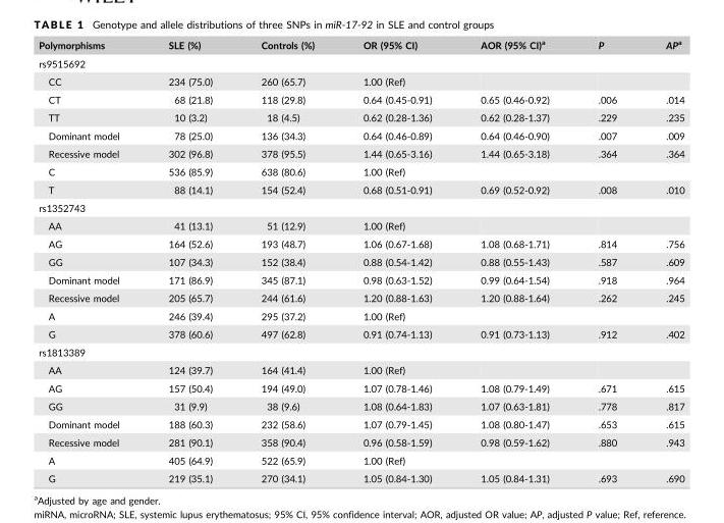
<table><thead><tr><td>Polymorphisms</td><td>SLE (%)</td><td>Controls (%)</td><td>OR (95% CI)</td><td>AOR (95% CI)<sup>a</sup></td><td>P</td><td>APa</td></tr></thead><tbody><tr><td colspan="7">rs9515692</td></tr><tr><td>CC</td><td>234 (75.0)</td><td>260 (65.7)</td><td>1.00 (Ref)</td><td></td><td></td><td></td></tr><tr><td>CT</td><td>68 (21.8)</td><td>118 (29.8)</td><td>0.64 (0.45-0.91)</td><td>0.65 (0.46-0.92)</td><td>.006</td><td>.014</td></tr><tr><td>TT</td><td>10 (3.2)</td><td>18 (4.5)</td><td>0.62 (0.28-1.36)</td><td>0.62 (0.28-1.37)</td><td>.229</td><td>.235</td></tr><tr><td>Dominant model</td><td>78 (25.0)</td><td>136 (34.3)</td><td>0.64 (0.46-0.89)</td><td>0.64 (0.46-0.90)</td><td>.007</td><td>.009</td></tr><tr><td>Recessive model</td><td>302 (96.8)</td><td>378 (95.5)</td><td>1.44 (0.65-3.16)</td><td>1.44 (0.65-3.18)</td><td>.364</td><td>.364</td></tr><tr><td>C</td><td>536 (85.9)</td><td>638 (80.6)</td><td>1.00 (Ref)</td><td></td><td></td><td></td></tr><tr><td>T</td><td>88 (14.1)</td><td>154 (52.4)</td><td>0.68 (0.51-0.91)</td><td>0.69 (0.52-0.92)</td><td>.008</td><td>.010</td></tr><tr><td colspan="7">rs1352743</td></tr><tr><td>AA</td><td>41 (13.1)</td><td>51 (12.9)</td><td>1.00 (Ref)</td><td></td><td></td><td></td></tr><tr><td>AG</td><td>164 (52.6)</td><td>193 (48.7)</td><td>1.06 (0.67-1.68)</td><td>1.08 (0.68-1.71)</td><td>.814</td><td>.756</td></tr><tr><td>GG</td><td>107 (34.3)</td><td>152 (38.4)</td><td>0.88 (0.54-1.42)</td><td>0.88 (0.55-1.43)</td><td>.587</td><td>.609</td></tr><tr><td>Dominant model</td><td>171 (86.9)</td><td>345 (87.1)</td><td>0.98 (0.63-1.52)</td><td>0.99 (0.64-1.54)</td><td>.918</td><td>.964</td></tr><tr><td>Recessive model</td><td>205 (65.7)</td><td>244 (61.6)</td><td>1.20 (0.88-1.63)</td><td>1.20 (0.88-1.64)</td><td>.262</td><td>.245</td></tr><tr><td>A</td><td>246 (39.4)</td><td>295 (37.2)</td><td>1.00 (Ref)</td><td></td><td></td><td></td></tr><tr><td>G</td><td>378 (60.6)</td><td>497 (62.8)</td><td>0.91 (0.74-1.13)</td><td>0.91 (0.73-1.13)</td><td>.912</td><td>.402</td></tr><tr><td colspan="7">rs1813389</td></tr><tr><td>AA</td><td>124 (39.7)</td><td>164 (41.4)</td><td>1.00 (Ref)</td><td></td><td></td><td></td></tr><tr><td>AG</td><td>157 (50.4)</td><td>194 (49.0)</td><td>1.07 (0.78-1.46)</td><td>1.08 (0.79-1.49)</td><td>.671</td><td>.615</td></tr><tr><td>GG</td><td>31 (9.9)</td><td>38 (9.6)</td><td>1.08 (0.64-1.83)</td><td>1.07 (0.63-1.81)</td><td>.778</td><td>.817</td></tr><tr><td>Dominant model</td><td>188 (60.3)</td><td>232 (58.6)</td><td>1.07 (0.79-1.45)</td><td>1.08 (0.80-1.47)</td><td>.653</td><td>.615</td></tr><tr><td>Recessive model</td><td>281 (90.1)</td><td>358 (90.4)</td><td>0.96 (0.58-1.59)</td><td>0.98 (0.59-1.62)</td><td>.880</td><td>.943</td></tr><tr><td>A</td><td>405 (64.9)</td><td>522 (65.9)</td><td>1.00 (Ref)</td><td></td><td></td><td></td></tr><tr><td>G</td><td>219 (35.1)</td><td>270 (34.1)</td><td>1.05 (0.84-1.30)</td><td>1.05 (0.84-1.31)</td><td>.693</td><td>.690</td></tr></tbody></table>